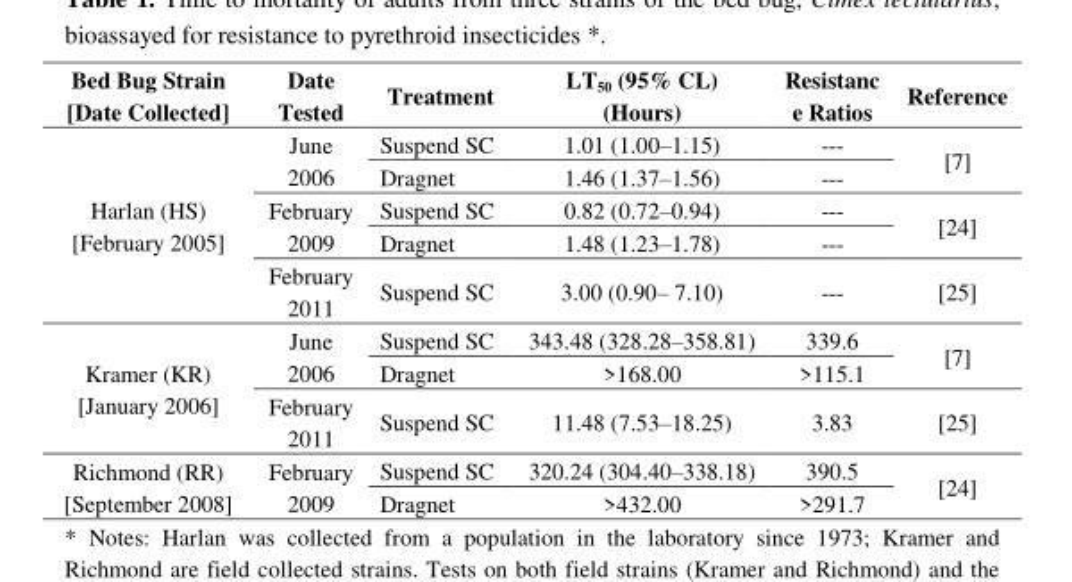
<table><thead><tr><td>Bed Bug Strain [Date Collected]</td><td>Date Tested</td><td>Treatment</td><td>LT<sub>50</sub> (95% CL) (Hours)</td><td>Resistanc e Ratios</td><td>Reference</td></tr></thead><tbody><tr><td rowspan="5">Harlan (HS) [February 2005]</td><td rowspan="2">June 2006</td><td>Suspend SC</td><td>1.01 (1.00–1.15)</td><td>---</td><td rowspan="2">[7]</td></tr><tr><td>Dragnet</td><td>1.46 (1.37–1.56)</td><td>---</td></tr><tr><td rowspan="2">February 2009</td><td>Suspend SC</td><td>0.82 (0.72–0.94)</td><td>---</td><td rowspan="2">[24]</td></tr><tr><td>Dragnet</td><td>1.48 (1.23–1.78)</td><td>---</td></tr><tr><td>February 2011</td><td>Suspend SC</td><td>3.00 (0.90– 7.10)</td><td>---</td><td>[25]</td></tr><tr><td rowspan="3">Kramer (KR) [January 2006]</td><td rowspan="2">June 2006</td><td>Suspend SC</td><td>343.48 (328.28–358.81)</td><td>339.6</td><td rowspan="2">[7]</td></tr><tr><td>Dragnet</td><td>&gt;168.00</td><td>&gt;115.1</td></tr><tr><td>February 2011</td><td>Suspend SC</td><td>11.48 (7.53–18.25)</td><td>3.83</td><td>[25]</td></tr><tr><td rowspan="2">Richmond (RR) [September 2008]</td><td rowspan="2">February 2009</td><td>Suspend SC</td><td>320.24 (304.40–338.18)</td><td>390.5</td><td rowspan="2">[24]</td></tr><tr><td>Dragnet</td><td>&gt;432.00</td><td>&gt;291.7</td></tr></tbody></table>